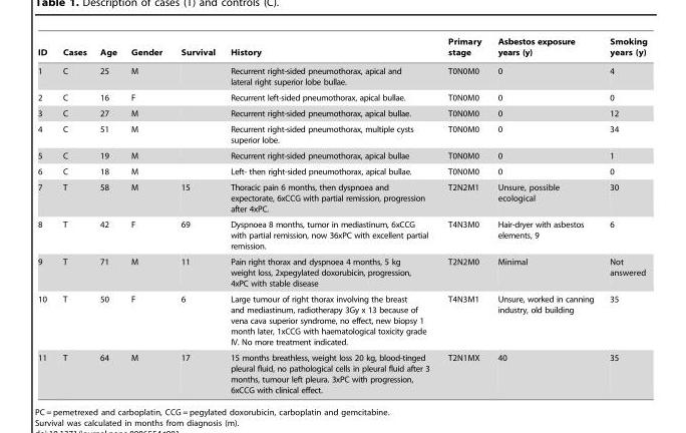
<table><thead><tr><td>ID</td><td>Cases</td><td>Age</td><td>Gender</td><td>Survival</td><td>History</td><td>Primary stage</td><td>Asbestos exposure years (y)</td><td>Smoking years (y)</td></tr></thead><tbody><tr><td>1</td><td>C</td><td>25</td><td>M</td><td></td><td>Recurrent right-sided pneumothorax, apical and lateral right superior lobe bullae.</td><td>T0N0M0</td><td>0</td><td>4</td></tr><tr><td>2</td><td>C</td><td>16</td><td>F</td><td></td><td>Recurrent left-sided pneumothorax, apical bullae.</td><td>T0N0M0</td><td>0</td><td>0</td></tr><tr><td>3</td><td>C</td><td>27</td><td>M</td><td></td><td>Recurrent right-sided pneumothorax, apical bullae.</td><td>T0N0M0</td><td>0</td><td>12</td></tr><tr><td>4</td><td>C</td><td>51</td><td>M</td><td></td><td>Recurrent right-sided pneumothorax, multiple cysts superior lobe.</td><td>T0N0M0</td><td>0</td><td>34</td></tr><tr><td>5</td><td>C</td><td>19</td><td>M</td><td></td><td>Recurrent right-sided pneumothorax, apical bullae</td><td>T0N0M0</td><td>0</td><td>1</td></tr><tr><td>6</td><td>C</td><td>18</td><td>M</td><td></td><td>Left- then right-sided pneumothorax, apical bullae.</td><td>T0N0M0</td><td>0</td><td>0</td></tr><tr><td>7</td><td>T</td><td>58</td><td>M</td><td>15</td><td>Thoracic pain 6 months, then dyspnoea and expectorate, 6xCCG with partial remission, progression after 4xPC.</td><td>T2N2M1</td><td>Unsure, possible ecological</td><td>30</td></tr><tr><td>8</td><td>T</td><td>42</td><td>F</td><td>69</td><td>Dyspnoea 8 months, tumor in mediastinum, 6xCCG with partial remission, now 36xPC with excellent partial remission.</td><td>T4N3M0</td><td>Hair-dryer with asbestos elements, 9</td><td>6</td></tr><tr><td>9</td><td>T</td><td>71</td><td>M</td><td>11</td><td>Pain right thorax and dyspnoea 4 months, 5 kg weight loss, 2xpegylated doxorubicin, progression, 4xPC with stable disease</td><td>T2N2M0</td><td>Minimal</td><td>Not answered</td></tr><tr><td>10</td><td>T</td><td>50</td><td>F</td><td>6</td><td>Large tumour of right thorax involving the breast and mediastinum, radiotherapy 3Gy x 13 because of vena cava superior syndrome, no effect, new biopsy 1 month later, 1xCCG with haematological toxicity grade IV. No more treatment indicated.</td><td>T4N3M1</td><td>Unsure, worked in canning industry, old building</td><td>35</td></tr><tr><td>11</td><td>T</td><td>64</td><td>M</td><td>17</td><td>15 months breathless, weight loss 20 kg, blood-tinged pleural fluid, no pathological cells in pleural fluid after 3 months, tumour left pleura. 3xPC with progression, 6xCCG with clinical effect.</td><td>T2N1MX</td><td>40</td><td>35</td></tr></tbody></table>